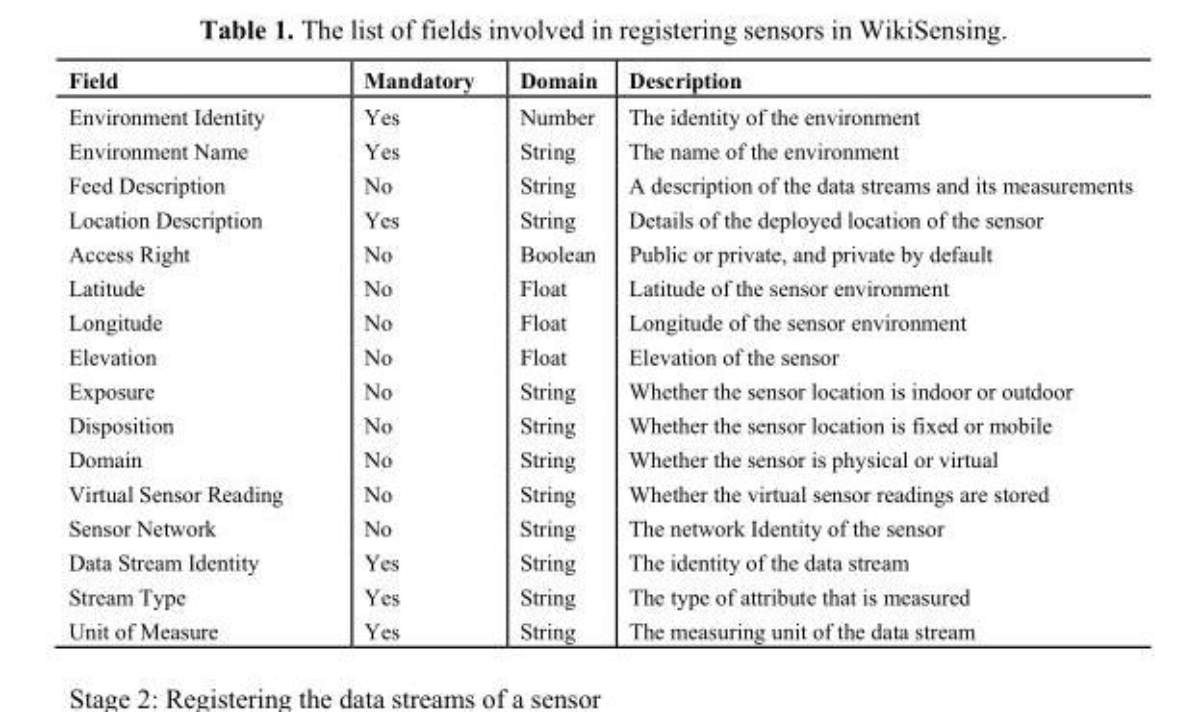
<table><thead><tr><td>Field</td><td>Mandatory</td><td>Domain</td><td>Description</td></tr></thead><tbody><tr><td>Environment Identity</td><td>Yes</td><td>Number</td><td>The identity of the environment</td></tr><tr><td>Environment Name</td><td>Yes</td><td>String</td><td>The name of the environment</td></tr><tr><td>Feed Description</td><td>No</td><td>String</td><td>A description of the data streams and its measurements</td></tr><tr><td>Location Description</td><td>Yes</td><td>String</td><td>Details of the deployed location of the sensor</td></tr><tr><td>Access Right</td><td>No</td><td>Boolean</td><td>Public or private, and private by default</td></tr><tr><td>Latitude</td><td>No</td><td>Float</td><td>Latitude of the sensor environment</td></tr><tr><td>Longitude</td><td>No</td><td>Float</td><td>Longitude of the sensor environment</td></tr><tr><td>Elevation</td><td>No</td><td>Float</td><td>Elevation of the sensor</td></tr><tr><td>Exposure</td><td>No</td><td>String</td><td>Whether the sensor location is indoor or outdoor</td></tr><tr><td>Disposition</td><td>No</td><td>String</td><td>Whether the sensor location is fixed or mobile</td></tr><tr><td>Domain</td><td>No</td><td>String</td><td>Whether the sensor is physical or virtual</td></tr><tr><td>Virtual Sensor Reading</td><td>No</td><td>String</td><td>Whether the virtual sensor readings are stored</td></tr><tr><td>Sensor Network</td><td>No</td><td>String</td><td>The network Identity of the sensor</td></tr><tr><td>Data Stream Identity</td><td>Yes</td><td>String</td><td>The identity of the data stream</td></tr><tr><td>Stream Type</td><td>Yes</td><td>String</td><td>The type of attribute that is measured</td></tr><tr><td>Unit of Measure</td><td>Yes</td><td>String</td><td>The measuring unit of the data stream</td></tr></tbody></table>